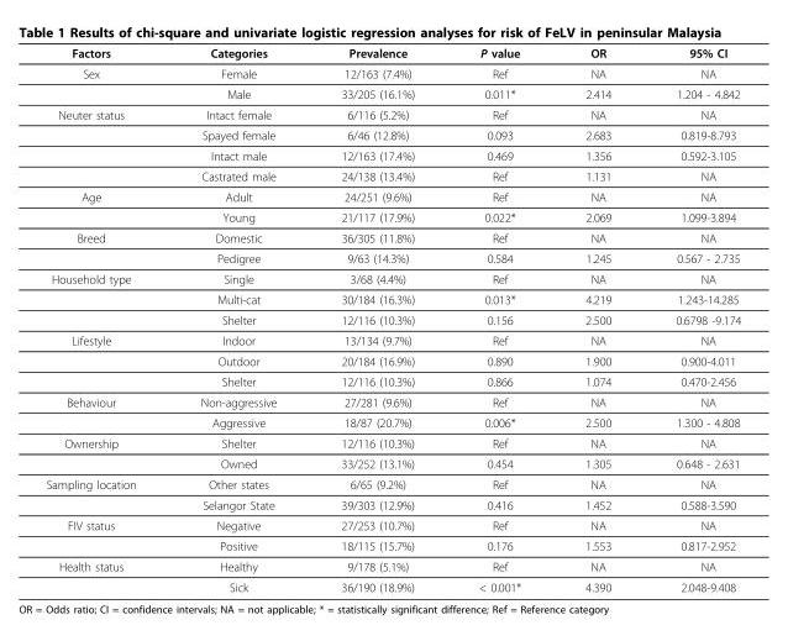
<table><thead><tr><td>Factors</td><td>Categories</td><td>Prevalence</td><td>P value</td><td>OR</td><td>95% CI</td></tr></thead><tbody><tr><td rowspan="2">Sex</td><td>Female</td><td>12/163 (7.4%)</td><td>Ref</td><td>NA</td><td>NA</td></tr><tr><td>Male</td><td>33/205 (16.1%)</td><td>0.011*</td><td>2.414</td><td>1.204 - 4.842</td></tr><tr><td rowspan="4">Neuter status</td><td>Intact female</td><td>6/116 (5.2%)</td><td>Ref</td><td>NA</td><td>NA</td></tr><tr><td>Spayed female</td><td>6/46 (12.8%)</td><td>0.093</td><td>2.683</td><td>0.819-8.793</td></tr><tr><td>Intact male</td><td>12/163 (17.4%)</td><td>0.469</td><td>1.356</td><td>0.592-3.105</td></tr><tr><td>Castrated male</td><td>24/138 (13.4%)</td><td>Ref</td><td>1.131</td><td>NA</td></tr><tr><td rowspan="2">Age</td><td>Adult</td><td>24/251 (9.6%)</td><td>Ref</td><td>NA</td><td>NA</td></tr><tr><td>Young</td><td>21/117 (17.9%)</td><td>0.022*</td><td>2.069</td><td>1.099-3.894</td></tr><tr><td rowspan="2">Breed</td><td>Domestic</td><td>36/305 (11.8%)</td><td>Ref</td><td>NA</td><td>NA</td></tr><tr><td>Pedigree</td><td>9/63 (14.3%)</td><td>0.584</td><td>1.245</td><td>0.567 - 2.735</td></tr><tr><td rowspan="3">Household type</td><td>Single</td><td>3/68 (4.4%)</td><td>Ref</td><td>NA</td><td>NA</td></tr><tr><td>Multi-cat</td><td>30/184 (16.3%)</td><td>0.013*</td><td>4.219</td><td>1.243-14.285</td></tr><tr><td>Shelter</td><td>12/116 (10.3%)</td><td>0.156</td><td>2.500</td><td>0.6798 -9.174</td></tr><tr><td rowspan="3">Lifestyle</td><td>Indoor</td><td>13/134 (9.7%)</td><td>Ref</td><td>NA</td><td>NA</td></tr><tr><td>Outdoor</td><td>20/184 (16.9%)</td><td>0.890</td><td>1.900</td><td>0.900-4.011</td></tr><tr><td>Shelter</td><td>12/116 (10.3%)</td><td>0.866</td><td>1.074</td><td>0.470-2.456</td></tr><tr><td rowspan="2">Behaviour</td><td>Non-aggressive</td><td>27/281 (9.6%)</td><td>Ref</td><td>NA</td><td>NA</td></tr><tr><td>Aggressive</td><td>18/87 (20.7%)</td><td>0.006*</td><td>2.500</td><td>1.300 - 4.808</td></tr><tr><td rowspan="2">Ownership</td><td>Shelter</td><td>12/116 (10.3%)</td><td>Ref</td><td>NA</td><td>NA</td></tr><tr><td>Owned</td><td>33/252 (13.1%)</td><td>0.454</td><td>1.305</td><td>0.648 - 2.631</td></tr><tr><td rowspan="2">Sampling location</td><td>Other states</td><td>6/65 (9.2%)</td><td>Ref</td><td>NA</td><td>NA</td></tr><tr><td>Selangor State</td><td>39/303 (12.9%)</td><td>0.416</td><td>1.452</td><td>0.588-3.590</td></tr><tr><td rowspan="2">FIV status</td><td>Negative</td><td>27/253 (10.7%)</td><td>Ref</td><td>NA</td><td>NA</td></tr><tr><td>Positive</td><td>18/115 (15.7%)</td><td>0.176</td><td>1.553</td><td>0.817-2.952</td></tr><tr><td rowspan="2">Health status</td><td>Healthy</td><td>9/178 (5.1%)</td><td>Ref</td><td>NA</td><td>NA</td></tr><tr><td>Sick</td><td>36/190 (18.9%)</td><td>&lt; 0.001*</td><td>4.390</td><td>2.048-9.408</td></tr></tbody></table>